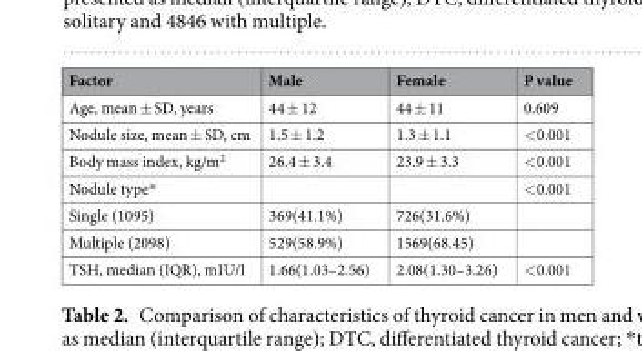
<table><thead><tr><td>Factor</td><td>Male</td><td>Female</td><td>P value</td></tr></thead><tbody><tr><td>Age, mean ± SD, years</td><td>44 ± 12</td><td>44 ± 11</td><td>0.609</td></tr><tr><td>Nodule size, mean ± SD, cm</td><td>1.5 ± 1.2</td><td>1.3 ± 1.1</td><td>&lt;0.001</td></tr><tr><td>Body mass index, kg/m<sup>2</sup></td><td>26.4 ± 3.4</td><td>23.9 ± 3.3</td><td>&lt;0.001</td></tr><tr><td>Nodule type*</td><td></td><td></td><td>&lt;0.001</td></tr><tr><td>Single (1095)</td><td>369(41.1%)</td><td>726(31.6%)</td><td></td></tr><tr><td>Multiple (2098)</td><td>529(58.9%)</td><td>1569(68.45)</td><td></td></tr><tr><td>TSH, median (IQR), mIU/l</td><td>1.66(1.03–2.56)</td><td>2.08(1.30–3.26)</td><td>&lt;0.001</td></tr></tbody></table>